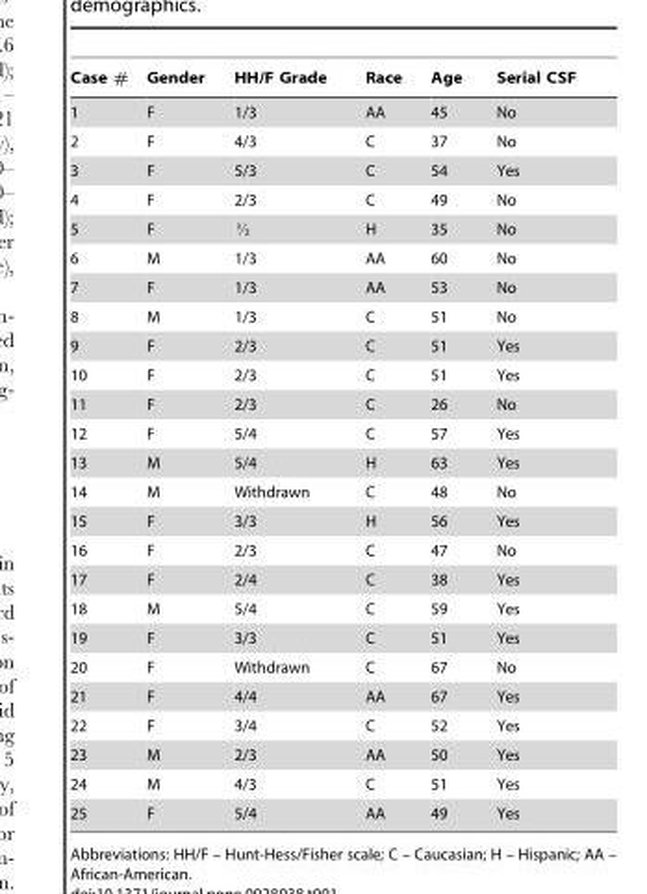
<table><thead><tr><td>Case #</td><td>Gender</td><td>HH/F Grade</td><td>Race</td><td>Age</td><td>Serial CSF</td></tr></thead><tbody><tr><td>1</td><td>F</td><td>1/3</td><td>AA</td><td>45</td><td>No</td></tr><tr><td>2</td><td>F</td><td>4/3</td><td>C</td><td>37</td><td>No</td></tr><tr><td>3</td><td>F</td><td>5/3</td><td>C</td><td>54</td><td>Yes</td></tr><tr><td>4</td><td>F</td><td>2/3</td><td>C</td><td>49</td><td>No</td></tr><tr><td>5</td><td>F</td><td>K</td><td>H</td><td>35</td><td>No</td></tr><tr><td>6</td><td>M</td><td>1/3</td><td>AA</td><td>60</td><td>No</td></tr><tr><td>7</td><td>F</td><td>1/3</td><td>AA</td><td>53</td><td>No</td></tr><tr><td>8</td><td>M</td><td>1/3</td><td>C</td><td>51</td><td>No</td></tr><tr><td>9</td><td>F</td><td>2/3</td><td>C</td><td>51</td><td>Yes</td></tr><tr><td>10</td><td>F</td><td>2/3</td><td>C</td><td>51</td><td>Yes</td></tr><tr><td>11</td><td>F</td><td>2/3</td><td>C</td><td>26</td><td>No</td></tr><tr><td>12</td><td>F</td><td>5/4</td><td>C</td><td>57</td><td>Yes</td></tr><tr><td>13</td><td>M</td><td>5/4</td><td>H</td><td>63</td><td>Yes</td></tr><tr><td>14</td><td>M</td><td>Withdrawn</td><td>C</td><td>48</td><td>No</td></tr><tr><td>15</td><td>F</td><td>3/3</td><td>H</td><td>56</td><td>Yes</td></tr><tr><td>16</td><td>F</td><td>2/3</td><td>C</td><td>47</td><td>No</td></tr><tr><td>17</td><td>F</td><td>2/4</td><td>C</td><td>38</td><td>Yes</td></tr><tr><td>18</td><td>M</td><td>5/4</td><td>C</td><td>59</td><td>Yes</td></tr><tr><td>19</td><td>F</td><td>3/3</td><td>C</td><td>51</td><td>Yes</td></tr><tr><td>20</td><td>F</td><td>Withdrawn</td><td>C</td><td>67</td><td>No</td></tr><tr><td>21</td><td>F</td><td>4/4</td><td>AA</td><td>67</td><td>Yes</td></tr><tr><td>22</td><td>F</td><td>3/4</td><td>C</td><td>52</td><td>Yes</td></tr><tr><td>23</td><td>M</td><td>2/3</td><td>AA</td><td>50</td><td>Yes</td></tr><tr><td>24</td><td>M</td><td>4/3</td><td>C</td><td>51</td><td>Yes</td></tr><tr><td>25</td><td>F</td><td>5/4</td><td>AA</td><td>49</td><td>Yes</td></tr></tbody></table>